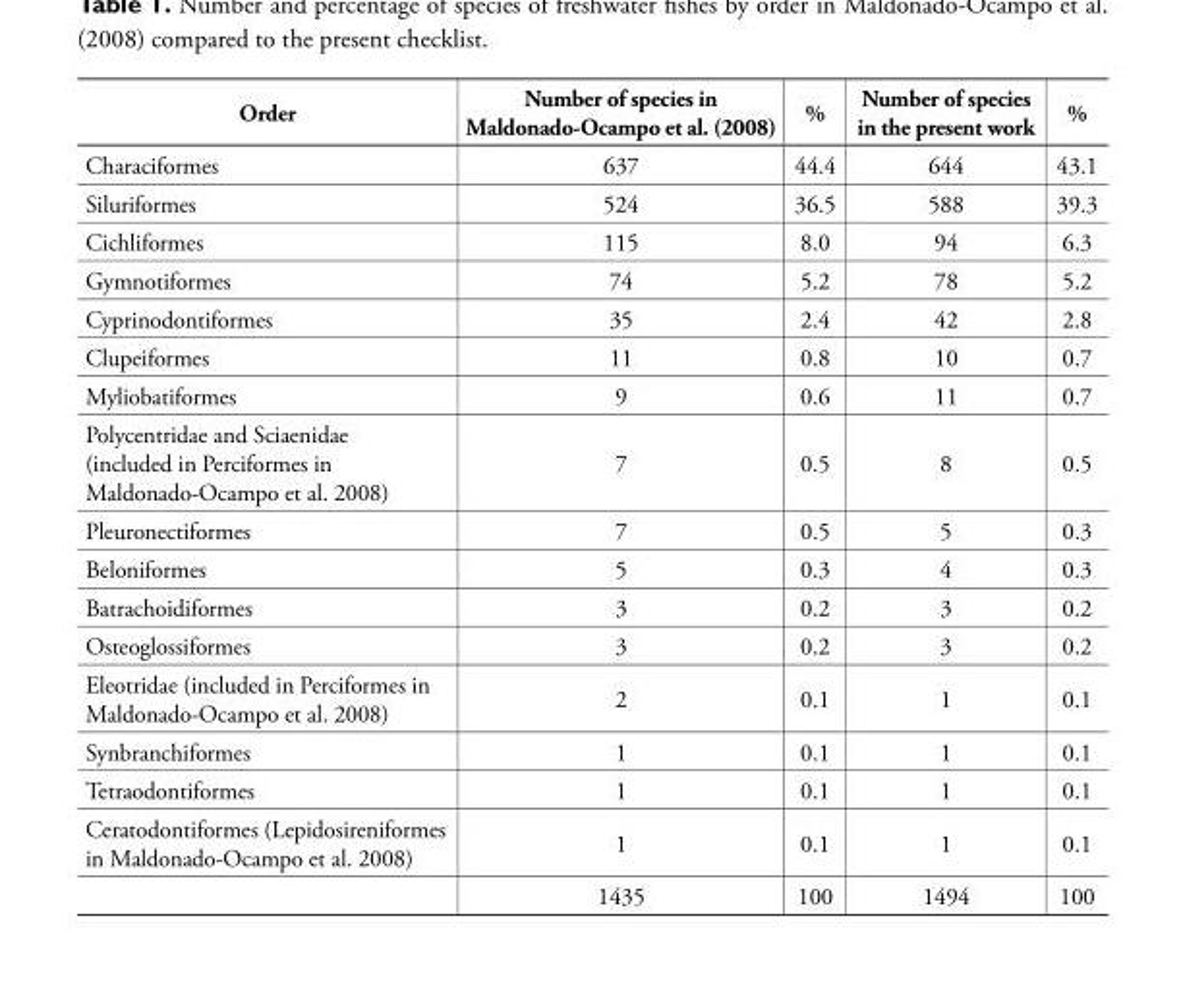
<table><thead><tr><td>Order</td><td>Number of species in Maldonado-Ocampo et al. (2008)</td><td>%</td><td>Number of species in the present work</td><td>%</td></tr></thead><tbody><tr><td>Characiformes</td><td>637</td><td>44.4</td><td>644</td><td>43.1</td></tr><tr><td>Siluriformes</td><td>524</td><td>36.5</td><td>588</td><td>39.3</td></tr><tr><td>Cichliformes</td><td>115</td><td>8.0</td><td>94</td><td>6.3</td></tr><tr><td>Gymnotiformes</td><td>74</td><td>5.2</td><td>78</td><td>5.2</td></tr><tr><td>Cyprinodontiformes</td><td>35</td><td>2.4</td><td>42</td><td>2.8</td></tr><tr><td>Clupeiformes</td><td>11</td><td>0.8</td><td>10</td><td>0.7</td></tr><tr><td>Myliobatiformes</td><td>9</td><td>0.6</td><td>11</td><td>0.7</td></tr><tr><td>Polycentridae and Sciaenidae (included in Perciformes in Maldonado-Ocampo et al. 2008)</td><td>7</td><td>0.5</td><td>8</td><td>0.5</td></tr><tr><td>Pleuronectiformes</td><td>7</td><td>0.5</td><td>5</td><td>0.3</td></tr><tr><td>Beloniformes</td><td>5</td><td>0.3</td><td>4</td><td>0.3</td></tr><tr><td>Batrachoidiformes</td><td>3</td><td>0.2</td><td>3</td><td>0.2</td></tr><tr><td>Osteoglossiformes</td><td>3</td><td>0.2</td><td>3</td><td>0.2</td></tr><tr><td>Eleotridae (included in Perciformes in Maldonado-Ocampo et al. 2008)</td><td>2</td><td>0.1</td><td>1</td><td>0.1</td></tr><tr><td>Synbranchiformes</td><td>1</td><td>0.1</td><td>1</td><td>0.1</td></tr><tr><td>Tetraodontiformes</td><td>1</td><td>0.1</td><td>1</td><td>0.1</td></tr><tr><td rowspan="2">Ceratodontiformes (Lepidosireniformes in Maldonado-Ocampo et al. 2008)</td><td>1</td><td>0.1</td><td>1</td><td>0.1</td></tr><tr><td>1435</td><td>100</td><td>1494</td><td>100</td></tr></tbody></table>